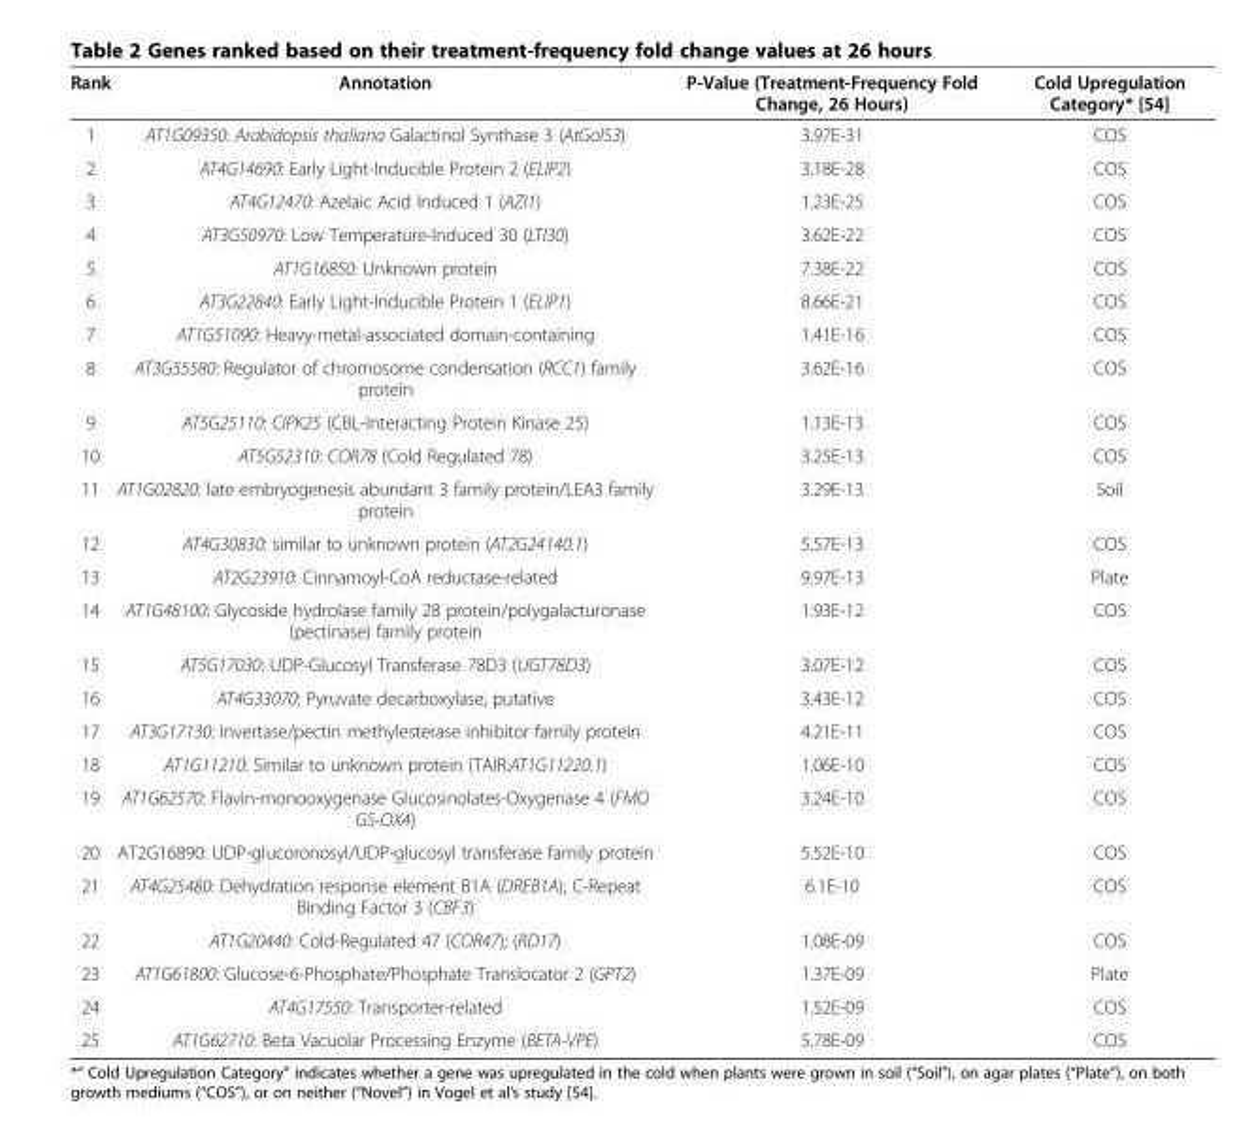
<table><thead><tr><td>Rank</td><td>Annotation</td><td>P-Value (Treatment-Frequency Fold Change, 26 Hours)</td><td>Cold Upregulation Category* [54]</td></tr></thead><tbody><tr><td>1</td><td>AT1G09350: Arabidopsis thaliana Galactinol Synthase 3 (AtGolS3)</td><td>3.97E-31</td><td>COS</td></tr><tr><td>2</td><td>AT4G14690: Early Light-Inducible Protein 2 (ELIP2)</td><td>3.18E-28</td><td>COS</td></tr><tr><td>3</td><td>AT4G12470: Azelaic Acid Induced 1 (AZI1)</td><td>1.23E-25</td><td>COS</td></tr><tr><td>4</td><td>AT3G50970: Low Temperature-Induced 30 (LTI30)</td><td>3.62E-22</td><td>COS</td></tr><tr><td>5</td><td>AT1G16850: Unknown protein</td><td>7.38E-22</td><td>COS</td></tr><tr><td>6</td><td>AT3G22840: Early Light-Inducible Protein 1 (ELIP1)</td><td>8.66E-21</td><td>COS</td></tr><tr><td>7</td><td>AT1G51090: Heavy-metal-associated domain-containing</td><td>1.41E-16</td><td>COS</td></tr><tr><td>8</td><td>AT3G55580: Regulator of chromosome condensation (RCC1) family protein</td><td>3.62E-16</td><td>COS</td></tr><tr><td>9</td><td>AT5G25110: CIPK25 (CBL-Interacting Protein Kinase 25)</td><td>1.13E-13</td><td>COS</td></tr><tr><td>10</td><td>AT5G52310: COR78 (Cold Regulated 78)</td><td>3.25E-13</td><td>COS</td></tr><tr><td>11</td><td>AT1G02820: late embryogenesis abundant 3 family protein/LEA3 family protein</td><td>3.29E-13</td><td>Soil</td></tr><tr><td>12</td><td>AT4G30830: similar to unknown protein (AT2G24140.1)</td><td>5.57E-13</td><td>COS</td></tr><tr><td>13</td><td>AT2G23910: Cinnamoyl-CoA reductase-related</td><td>9.97E-13</td><td>Plate</td></tr><tr><td>14</td><td>AT1G48100: Glycoside hydrolase family 28 protein/polygalacturonase (pectinase) family protein</td><td>1.93E-12</td><td>COS</td></tr><tr><td>15</td><td>AT5G17030: UDP-Glucosyl Transferase 78D3 (UGT78D3)</td><td>3.07E-12</td><td>COS</td></tr><tr><td>16</td><td>AT4G33070: Pyruvate decarboxylase, putative</td><td>3.43E-12</td><td>COS</td></tr><tr><td>17</td><td>AT3G17130: Invertase/pectin methylesterase inhibitor family protein</td><td>4.21E-11</td><td>COS</td></tr><tr><td>18</td><td>AT1G11210: Similar to unknown protein (TAIR:AT1G11220.1)</td><td>1.06E-10</td><td>COS</td></tr><tr><td>19</td><td>AT1G62570: Flavin-monooxygenase Glucosinolates-Oxygenase 4 (FMO GS-OX4)</td><td>3.24E-10</td><td>COS</td></tr><tr><td>20</td><td>AT2G16890: UDP-glucoronosyl/UDP-glucosyl transferase family protein</td><td>5.52E-10</td><td>COS</td></tr><tr><td>21</td><td>AT4G25480: Dehydration response element B1A (DREB1A); C-Repeat Binding Factor 3 (CBF3)</td><td>6.1E-10</td><td>COS</td></tr><tr><td>22</td><td>AT1G20440: Cold-Regulated 47 (COR47); (RD17)</td><td>1.08E-09</td><td>COS</td></tr><tr><td>23</td><td>AT1G61800: Glucose-6-Phosphate/Phosphate Translocator 2 (GPT2)</td><td>1.37E-09</td><td>Plate</td></tr><tr><td>24</td><td>AT4G17550: Transporter-related</td><td>1.52E-09</td><td>COS</td></tr><tr><td>25</td><td>AT1G62710: Beta Vacuolar Processing Enzyme (BETA-VPE)</td><td>5.78E-09</td><td>COS</td></tr></tbody></table>